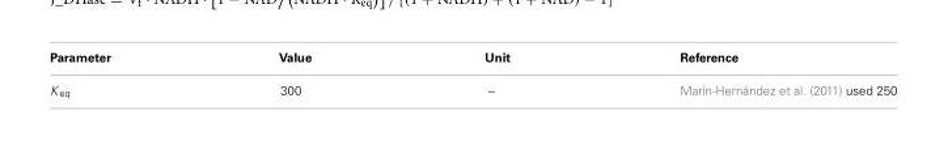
<table><thead><tr><td>Parameter</td><td>Value</td><td>Unit</td><td>Reference</td></tr></thead><tbody><tr><td>K <sub>eq</sub></td><td>300</td><td>–</td><td>Marín-Hernández et al. (2011) used 250</td></tr></tbody></table>